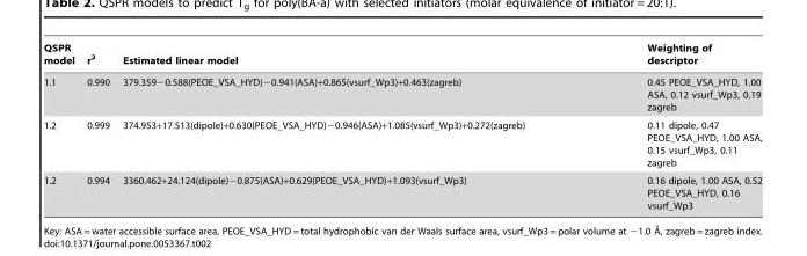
<table><thead><tr><td>QSPR model</td><td>r<sup>2</sup></td><td>Estimated linear model</td><td>Weighting of descriptor</td></tr></thead><tbody><tr><td>1.1</td><td>0.990</td><td>379.359−0.588(PEOE_VSA_HYD)−0.941(ASA)+0.865(vsurf_Wp3)+0.463(zagreb)</td><td>0.45 PEOE_VSA_HYD, 1.00 ASA, 0.12 vsurf_Wp3, 0.19 zagreb</td></tr><tr><td>1.2</td><td>0.999</td><td>374.953+17.513(dipole)+0.630(PEOE_VSA_HYD)−0.946(ASA)+1.085(vsurf_Wp3)+0.272(zagreb)</td><td>0.11 dipole, 0.47 PEOE_VSA_HYD, 1.00 ASA, 0.15 vsurf_Wp3, 0.11 zagreb</td></tr><tr><td>1.2</td><td>0.994</td><td>3360.462+24.124(dipole)−0.875(ASA)+0.629(PEOE_VSA_HYD)+1.093(vsurf_Wp3)</td><td>0.16 dipole, 1.00 ASA, 0.52 PEOE_VSA_HYD, 0.16 vsurf_Wp3</td></tr></tbody></table>